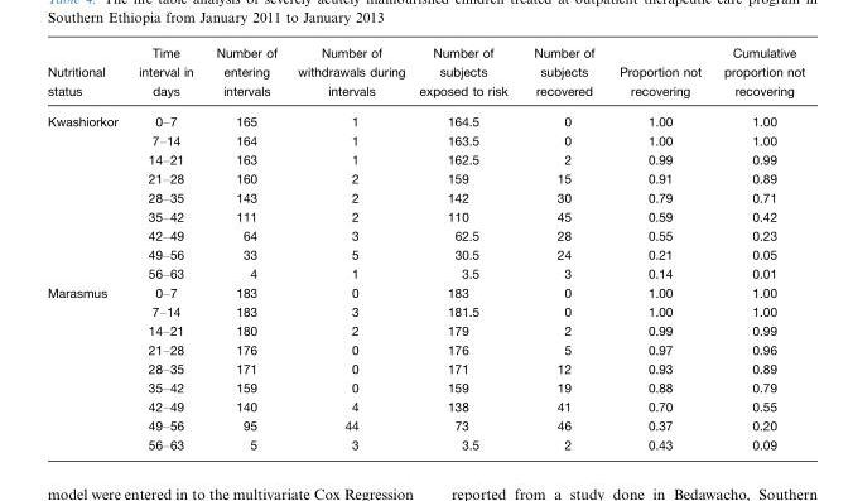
<table><thead><tr><td>Nutritional status</td><td>Time interval in days</td><td>Number of entering intervals</td><td>Number of withdrawals during intervals</td><td>Number of subjects exposed to risk</td><td>Number of subjects recovered</td><td>Proportion not recovering</td><td>Cumulative proportion not recovering</td></tr></thead><tbody><tr><td rowspan="9">Kwashiorkor</td><td>0–7</td><td>165</td><td>1</td><td>164.5</td><td>0</td><td>1.00</td><td>1.00</td></tr><tr><td>7–14</td><td>164</td><td>1</td><td>163.5</td><td>0</td><td>1.00</td><td>1.00</td></tr><tr><td>14–21</td><td>163</td><td>1</td><td>162.5</td><td>2</td><td>0.99</td><td>0.99</td></tr><tr><td>21–28</td><td>160</td><td>2</td><td>159</td><td>15</td><td>0.91</td><td>0.89</td></tr><tr><td>28–35</td><td>143</td><td>2</td><td>142</td><td>30</td><td>0.79</td><td>0.71</td></tr><tr><td>35–42</td><td>111</td><td>2</td><td>110</td><td>45</td><td>0.59</td><td>0.42</td></tr><tr><td>42–49</td><td>64</td><td>3</td><td>62.5</td><td>28</td><td>0.55</td><td>0.23</td></tr><tr><td>49–56</td><td>33</td><td>5</td><td>30.5</td><td>24</td><td>0.21</td><td>0.05</td></tr><tr><td>56–63</td><td>4</td><td>1</td><td>3.5</td><td>3</td><td>0.14</td><td>0.01</td></tr><tr><td rowspan="9">Marasmus</td><td>0–7</td><td>183</td><td>0</td><td>183</td><td>0</td><td>1.00</td><td>1.00</td></tr><tr><td>7–14</td><td>183</td><td>3</td><td>181.5</td><td>0</td><td>1.00</td><td>1.00</td></tr><tr><td>14–21</td><td>180</td><td>2</td><td>179</td><td>2</td><td>0.99</td><td>0.99</td></tr><tr><td>21–28</td><td>176</td><td>0</td><td>176</td><td>5</td><td>0.97</td><td>0.96</td></tr><tr><td>28–35</td><td>171</td><td>0</td><td>171</td><td>12</td><td>0.93</td><td>0.89</td></tr><tr><td>35–42</td><td>159</td><td>0</td><td>159</td><td>19</td><td>0.88</td><td>0.79</td></tr><tr><td>42–49</td><td>140</td><td>4</td><td>138</td><td>41</td><td>0.70</td><td>0.55</td></tr><tr><td>49–56</td><td>95</td><td>44</td><td>73</td><td>46</td><td>0.37</td><td>0.20</td></tr><tr><td>56–63</td><td>5</td><td>3</td><td>3.5</td><td>2</td><td>0.43</td><td>0.09</td></tr></tbody></table>